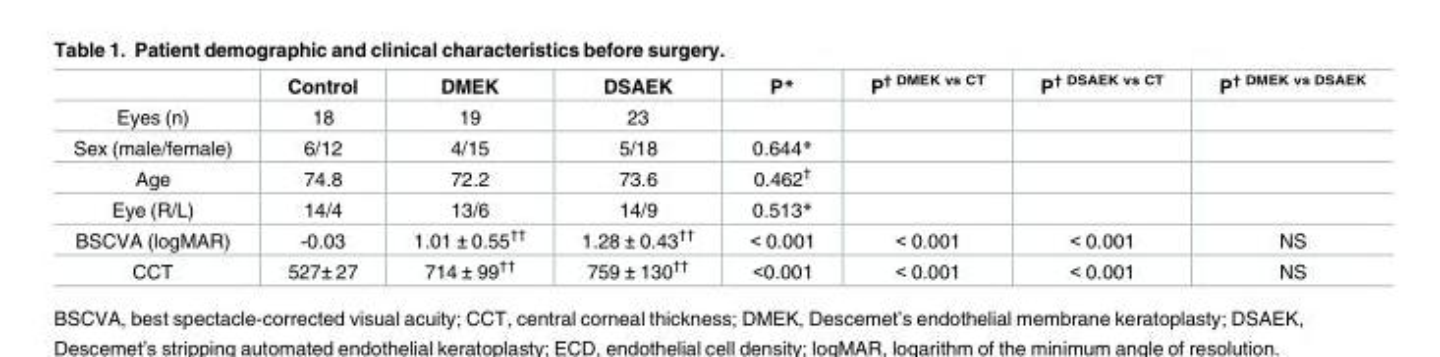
<table><thead><tr><td></td><td>Control</td><td>DMEK</td><td>DSAEK</td><td>P*</td><td>P<sup>† DMEK vs CT</sup></td><td>P<sup>† DSAEK vs CT</sup></td><td>P<sup>† DMEK vs DSAEK</sup></td></tr></thead><tbody><tr><td>Eyes (n)</td><td>18</td><td>19</td><td>23</td><td></td><td></td><td></td><td></td></tr><tr><td>Sex (male/female)</td><td>6/12</td><td>4/15</td><td>5/18</td><td>0.644*</td><td></td><td></td><td></td></tr><tr><td>Age</td><td>74.8</td><td>72.2</td><td>73.6</td><td>0.462<sup>†</sup></td><td></td><td></td><td></td></tr><tr><td>Eye (R/L)</td><td>14/4</td><td>13/6</td><td>14/9</td><td>0.513*</td><td></td><td></td><td></td></tr><tr><td>BSCVA (logMAR)</td><td>-0.03</td><td>1.01 ± 0.55<sup>††</sup></td><td>1.28 ± 0.43<sup>††</sup></td><td>&lt; 0.001</td><td>&lt; 0.001</td><td>&lt; 0.001</td><td>NS</td></tr><tr><td>CCT</td><td>527± 27</td><td>714 ± 99<sup>††</sup></td><td>759 ± 130<sup>††</sup></td><td>&lt;0.001</td><td>&lt; 0.001</td><td>&lt; 0.001</td><td>NS</td></tr></tbody></table>